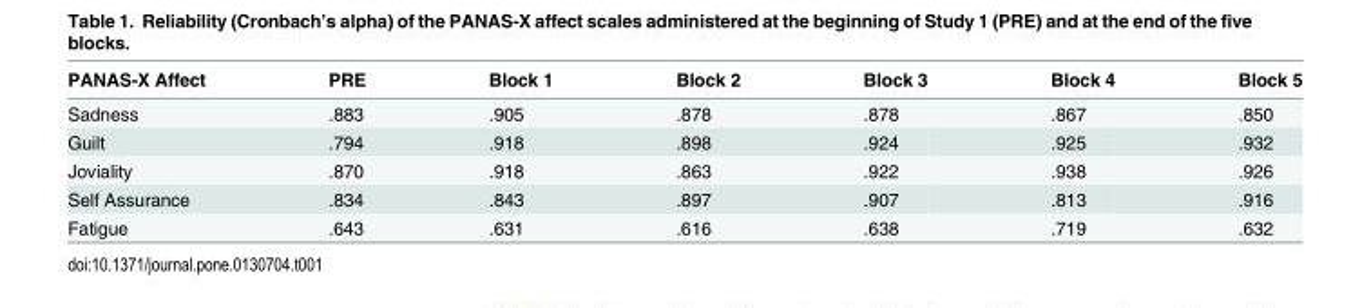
<table><thead><tr><td>PANAS-X Affect</td><td>PRE</td><td>Block 1</td><td>Block 2</td><td>Block 3</td><td>Block 4</td><td>Block 5</td></tr></thead><tbody><tr><td>Sadness</td><td>.883</td><td>.905</td><td>.878</td><td>.878</td><td>.867</td><td>.850</td></tr><tr><td>Guilt</td><td>.794</td><td>.918</td><td>.898</td><td>.924</td><td>.925</td><td>.932</td></tr><tr><td>Joviality</td><td>.870</td><td>.918</td><td>.863</td><td>.922</td><td>.938</td><td>.926</td></tr><tr><td>Self Assurance</td><td>.834</td><td>.843</td><td>.897</td><td>.907</td><td>.813</td><td>.916</td></tr><tr><td>Fatigue</td><td>.643</td><td>.631</td><td>.616</td><td>.638</td><td>.719</td><td>.632</td></tr></tbody></table>